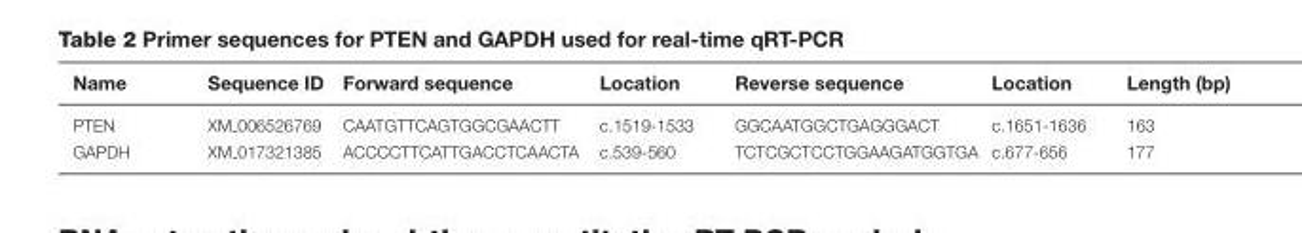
<table><thead><tr><td>Name</td><td>Sequence ID</td><td>Forward sequence</td><td>Location</td><td>Reverse sequence</td><td>Location</td><td>Length (bp)</td></tr></thead><tbody><tr><td>PTEN</td><td>XM 006526769</td><td>CAATGTTCAGTGGCGAACTT</td><td>c.1519-1533</td><td>GGCAATGGCTGAGGGACT</td><td>c.1651-1636</td><td>163</td></tr><tr><td>GAPDH</td><td>XM 017321385</td><td>ACCCCTTCATTGACCTCAACTA</td><td>c.539-560</td><td>TCTCGCTCCTGGAAGATGGTGA</td><td>c.677-656</td><td>177</td></tr></tbody></table>